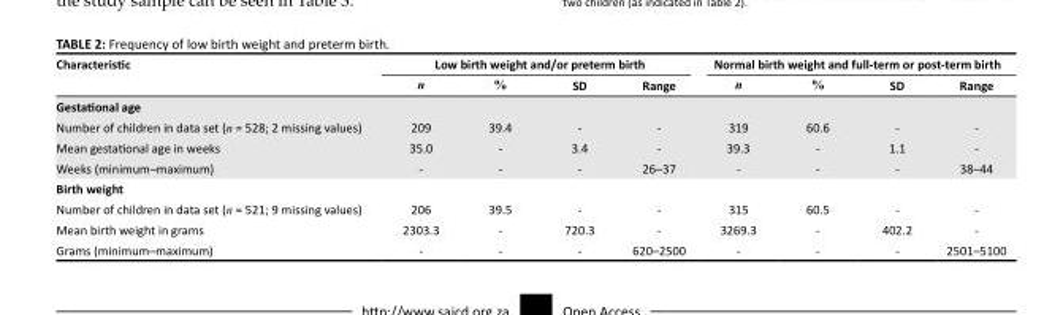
<table><thead><tr><td rowspan="2">Characteristic</td><td colspan="4">Low birth weight and/or preterm birth</td><td colspan="4">Normal birth weight and full-term or post-term birth</td></tr><tr><td>n</td><td>%</td><td>SD</td><td>Range</td><td>n</td><td>%</td><td>SD</td><td>Range</td></tr></thead><tbody><tr><td colspan="9">Gestational age</td></tr><tr><td>Number of children in data set (n = 528; 2 missing values)</td><td>209</td><td>39.4</td><td>-</td><td>-</td><td>319</td><td>60.6</td><td>-</td><td>-</td></tr><tr><td>Mean gestational age in weeks</td><td>35.0</td><td>-</td><td>3.4</td><td>-</td><td>39.3</td><td>-</td><td>1.1</td><td>-</td></tr><tr><td>Weeks (minimum–maximum)</td><td>-</td><td>-</td><td>-</td><td>26–37</td><td>-</td><td>-</td><td>-</td><td>38–44</td></tr><tr><td colspan="9">Birth weight</td></tr><tr><td>Number of children in data set (n = 521; 9 missing values)</td><td>206</td><td>39.5</td><td>-</td><td>-</td><td>315</td><td>60.5</td><td>-</td><td>-</td></tr><tr><td>Mean birth weight in grams</td><td>2303.3</td><td>-</td><td>720.3</td><td>-</td><td>3269.3</td><td>-</td><td>402.2</td><td>-</td></tr><tr><td>Grams (minimum–maximum)</td><td>-</td><td>-</td><td>-</td><td>620–2500</td><td>-</td><td>-</td><td>-</td><td>2501–5100</td></tr></tbody></table>